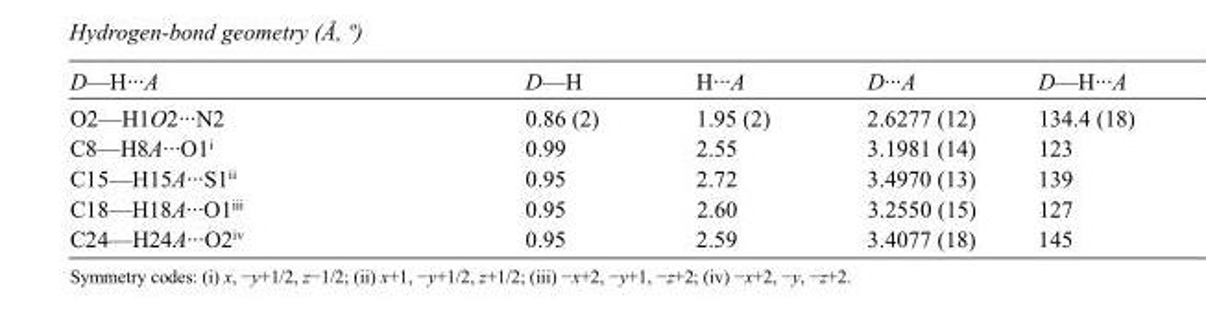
<table><tbody><tr><td>D—H···A</td><td>D—H</td><td>H···A</td><td>D···A</td><td>D—H···A</td></tr><tr><td>O2—H1O2···N2</td><td>0.86 (2)</td><td>1.95 (2)</td><td>2.6277 (12)</td><td>134.4 (18)</td></tr><tr><td>C8—H8A···O1<sup>i</sup></td><td>0.99</td><td>2.55</td><td>3.1981 (14)</td><td>123</td></tr><tr><td>C15—H15A···S1<sup>ii</sup></td><td>0.95</td><td>2.72</td><td>3.4970 (13)</td><td>139</td></tr><tr><td>C18—H18A···O1<sup>iii</sup></td><td>0.95</td><td>2.60</td><td>3.2550 (15)</td><td>127</td></tr><tr><td>C24—H24A···O2<sup>iv</sup></td><td>0.95</td><td>2.59</td><td>3.4077 (18)</td><td>145</td></tr></tbody></table>